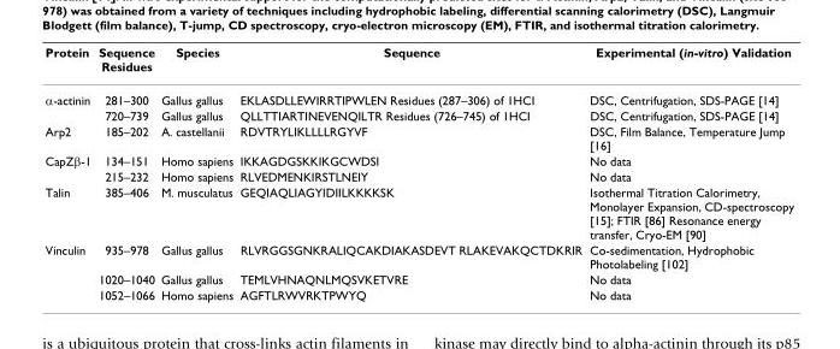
<table><thead><tr><td>Protein</td><td>Sequence Residues</td><td>Species</td><td>Sequence</td><td>Experimental (in-vitro) Validation</td></tr></thead><tbody><tr><td rowspan="2">α-actinin</td><td>281–300</td><td>Gallus gallus</td><td>EKLASDLLEWIRRTIPWLEN Residues (287–306) of 1HCI</td><td>DSC, Centrifugation, SDS-PAGE [14]</td></tr><tr><td>720–739</td><td>Gallus gallus</td><td>QLLTTIARTINEVENQILTR Residues (726–745) of 1HCI</td><td>DSC, Centrifugation, SDS-PAGE [14]</td></tr><tr><td>Arp2</td><td>185–202</td><td>A. castellanii</td><td>RDVTRYLIKLLLLRGYVF</td><td>DSC, Film Balance, Temperature Jump [16]</td></tr><tr><td rowspan="2">CapZβ-1</td><td>134–151</td><td>Homo sapiens</td><td>IKKAGDGSKKIKGCWDSI</td><td>No data</td></tr><tr><td>215–232</td><td>Homo sapiens</td><td>RLVEDMENKIRSTLNEIY</td><td>No data</td></tr><tr><td>Talin</td><td>385–406</td><td>M. musculatus</td><td>GEQIAQLIAGYIDIILKKKKSK</td><td>Isothermal Titration Calorimetry, Monolayer Expansion, CD-spectroscopy [15]; FTIR [86] Resonance energy transfer, Cryo-EM [90]</td></tr><tr><td rowspan="3">Vinculin</td><td>935–978</td><td>Gallus gallus</td><td>RLVRGGSGNKRALIQCAKDIAKASDEVT RLAKEVAKQCTDKRIR</td><td>Co-sedimentation, Hydrophobic Photolabeling [102]</td></tr><tr><td>1020–1040</td><td>Gallus gallus</td><td>TEMLVHNAQNLMQSVKETVRE</td><td>No data</td></tr><tr><td>1052–1066</td><td>Homo sapiens</td><td>AGFTLRWVRKTPWYQ</td><td>No data</td></tr></tbody></table>